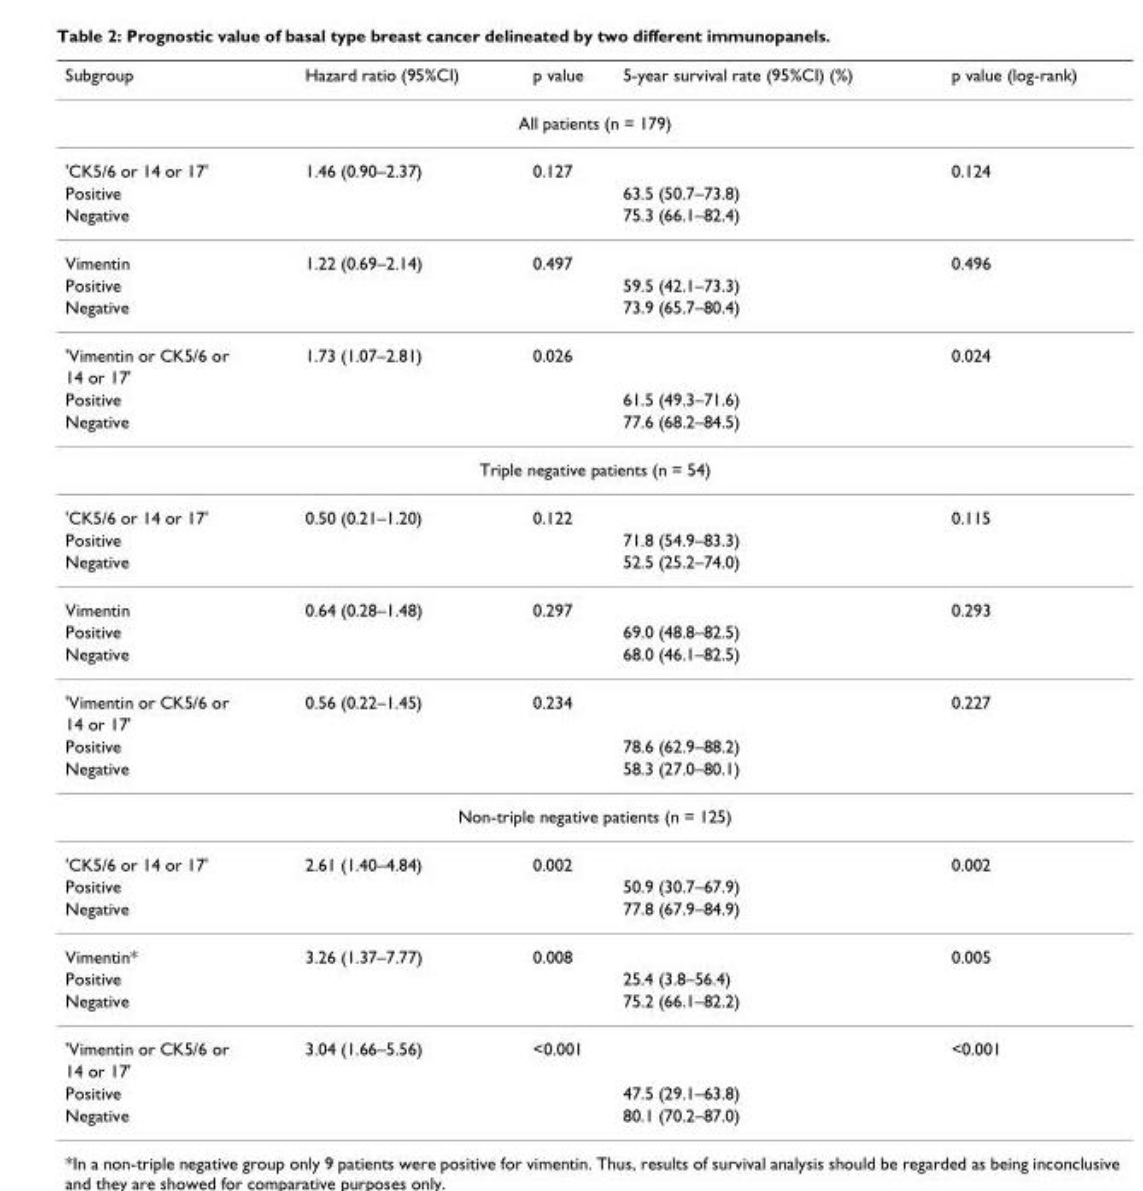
<table><thead><tr><td>Subgroup</td><td>Hazard ratio (95%CI)</td><td>p value</td><td>5-year survival rate (95%CI) (%)</td><td>p value (log-rank)</td></tr></thead><tbody><tr><td colspan="5">All patients (n = 179)</td></tr><tr><td>&#x27;CK5/6 or 14 or 17&#x27;</td><td>1.46 (0.90–2.37)</td><td>0.127</td><td></td><td>0.124</td></tr><tr><td>Positive</td><td></td><td></td><td>63.5 (50.7–73.8)</td><td></td></tr><tr><td>Negative</td><td></td><td></td><td>75.3 (66.1–82.4)</td><td></td></tr><tr><td>Vimentin</td><td>1.22 (0.69–2.14)</td><td>0.497</td><td></td><td>0.496</td></tr><tr><td>Positive</td><td></td><td></td><td>59.5 (42.1–73.3)</td><td></td></tr><tr><td>Negative</td><td></td><td></td><td>73.9 (65.7–80.4)</td><td></td></tr><tr><td>&#x27;Vimentin or CK5/6 or</td><td>1.73 (1.07–2.81)</td><td>0.026</td><td></td><td>0.024</td></tr><tr><td colspan="5">14 or 17&#x27;</td></tr><tr><td>Positive</td><td></td><td></td><td>61.5 (49.3–71.6)</td><td></td></tr><tr><td>Negative</td><td></td><td></td><td>77.6 (68.2–84.5)</td><td></td></tr><tr><td colspan="5">Triple negative patients (n = 54)</td></tr><tr><td>&#x27;CK5/6 or 14 or 17&#x27;</td><td>0.50 (0.21–1.20)</td><td>0.122</td><td></td><td>0.115</td></tr><tr><td>Positive</td><td></td><td></td><td>71.8 (54.9–83.3)</td><td></td></tr><tr><td>Negative</td><td></td><td></td><td>52.5 (25.2–74.0)</td><td></td></tr><tr><td>Vimentin</td><td>0.64 (0.28–1.48)</td><td>0.297</td><td></td><td>0.293</td></tr><tr><td>Positive</td><td></td><td></td><td>69.0 (48.8–82.5)</td><td></td></tr><tr><td>Negative</td><td></td><td></td><td>68.0 (46.1–82.5)</td><td></td></tr><tr><td>&#x27;Vimentin or CK5/6 or</td><td>0.56 (0.22–1.45)</td><td>0.234</td><td></td><td>0.227</td></tr><tr><td colspan="5">14 or 17&#x27;</td></tr><tr><td>Positive</td><td></td><td></td><td>78.6 (62.9–88.2)</td><td></td></tr><tr><td>Negative</td><td></td><td></td><td>58.3 (27.0–80.1)</td><td></td></tr><tr><td colspan="5">Non-triple negative patients (n = 125)</td></tr><tr><td>&#x27;CK5/6 or 14 or 17&#x27;</td><td>2.61 (1.40–4.84)</td><td>0.002</td><td></td><td>0.002</td></tr><tr><td>Positive</td><td></td><td></td><td>50.9 (30.7–67.9)</td><td></td></tr><tr><td>Negative</td><td></td><td></td><td>77.8 (67.9–84.9)</td><td></td></tr><tr><td>Vimentin*</td><td>3.26 (1.37–7.77)</td><td>0.008</td><td></td><td>0.005</td></tr><tr><td>Positive</td><td></td><td></td><td>25.4 (3.8–56.4)</td><td></td></tr><tr><td>Negative</td><td></td><td></td><td>75.2 (66.1–82.2)</td><td></td></tr><tr><td>&#x27;Vimentin or CK5/6 or</td><td>3.04 (1.66–5.56)</td><td>&lt;0.001</td><td></td><td>&lt;0.001</td></tr><tr><td colspan="5">14 or 17&#x27;</td></tr><tr><td>Positive</td><td></td><td></td><td>47.5 (29.1–63.8)</td><td></td></tr><tr><td>Negative</td><td></td><td></td><td>80.1 (70.2–87.0)</td><td></td></tr></tbody></table>